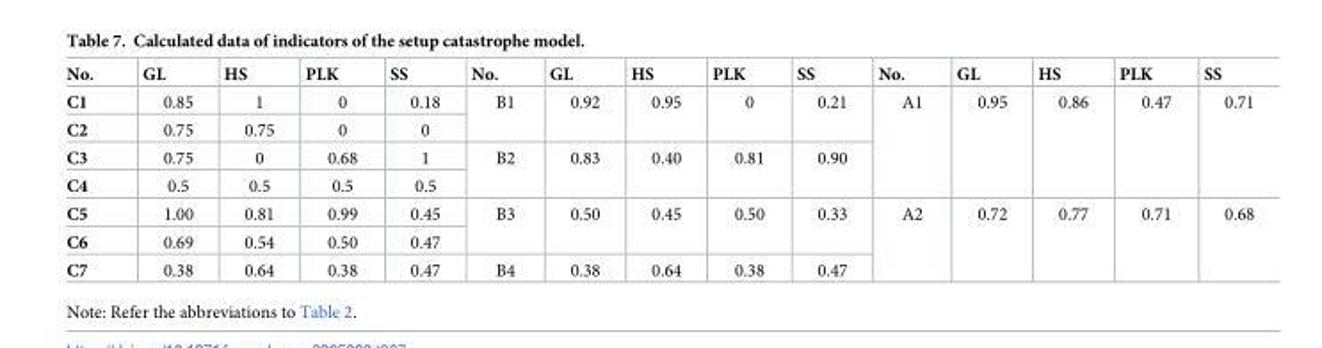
<table><thead><tr><td>No.</td><td>GL</td><td>HS</td><td>PLK</td><td>SS</td><td>No.</td><td>GL</td><td>HS</td><td>PLK</td><td>SS</td><td>No.</td><td>GL</td><td>HS</td><td>PLK</td><td>SS</td></tr></thead><tbody><tr><td>C1</td><td>0.85</td><td>1</td><td>0</td><td>0.18</td><td rowspan="2">B1</td><td rowspan="2">0.92</td><td rowspan="2">0.95</td><td rowspan="2">0</td><td rowspan="2">0.21</td><td rowspan="4">A1</td><td rowspan="4">0.95</td><td rowspan="4">0.86</td><td rowspan="4">0.47</td><td rowspan="4">0.71</td></tr><tr><td>C2</td><td>0.75</td><td>0.75</td><td>0</td><td>0</td></tr><tr><td>C3</td><td>0.75</td><td>0</td><td>0.68</td><td>1</td><td rowspan="2">B2</td><td rowspan="2">0.83</td><td rowspan="2">0.40</td><td rowspan="2">0.81</td><td rowspan="2">0.90</td></tr><tr><td>C4</td><td>0.5</td><td>0.5</td><td>0.5</td><td>0.5</td></tr><tr><td>C5</td><td>1.00</td><td>0.81</td><td>0.99</td><td>0.45</td><td rowspan="2">B3</td><td rowspan="2">0.50</td><td rowspan="2">0.45</td><td rowspan="2">0.50</td><td rowspan="2">0.33</td><td rowspan="3">A2</td><td rowspan="3">0.72</td><td rowspan="3">0.77</td><td rowspan="3">0.71</td><td rowspan="3">0.68</td></tr><tr><td>C6</td><td>0.69</td><td>0.54</td><td>0.50</td><td>0.47</td></tr><tr><td>C7</td><td>0.38</td><td>0.64</td><td>0.38</td><td>0.47</td><td>B4</td><td>0.38</td><td>0.64</td><td>0.38</td><td>0.47</td></tr></tbody></table>